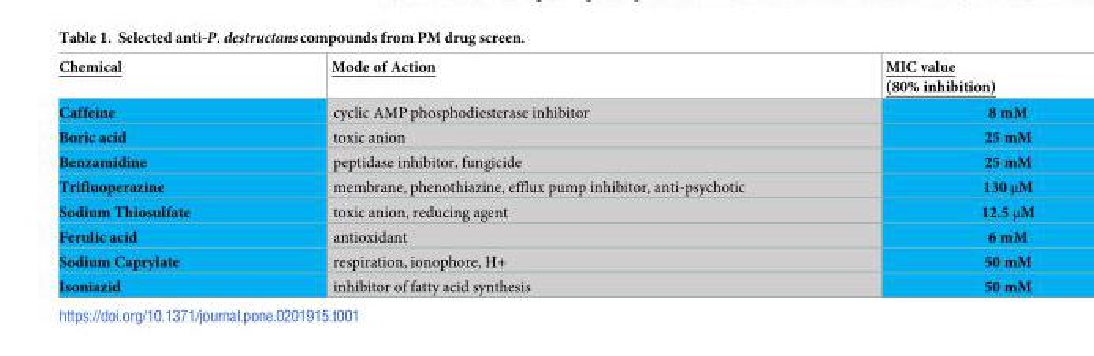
<table><thead><tr><td>Chemical</td><td>Mode of Action</td><td>MIC value (80% inhibition)</td></tr></thead><tbody><tr><td>Caffeine</td><td>cyclic AMP phosphodiesterase inhibitor</td><td>8 mM</td></tr><tr><td>Boric acid</td><td>toxic anion</td><td>25 mM</td></tr><tr><td>Benzamidine</td><td>peptidase inhibitor, fungicide</td><td>25 mM</td></tr><tr><td>Trifluoperazine</td><td>membrane, phenothiazine, efflux pump inhibitor, anti-psychotic</td><td>130 μM</td></tr><tr><td>Sodium Thiosulfate</td><td>toxic anion, reducing agent</td><td>12.5 μM</td></tr><tr><td>Ferulic acid</td><td>antioxidant</td><td>6 mM</td></tr><tr><td>Sodium Caprylate</td><td>respiration, ionophore, H+</td><td>50 mM</td></tr><tr><td>Isoniazid</td><td>inhibitor of fatty acid synthesis</td><td>50 mM</td></tr></tbody></table>